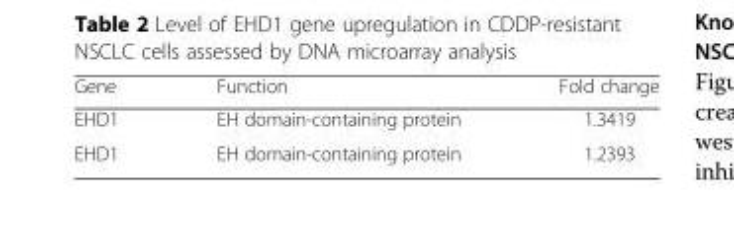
<table><thead><tr><td>Gene</td><td>Function</td><td>Fold change</td></tr></thead><tbody><tr><td>EHD1</td><td>EH domain-containing protein</td><td>1.3419</td></tr><tr><td>EHD1</td><td>EH domain-containing protein</td><td>1.2393</td></tr></tbody></table>